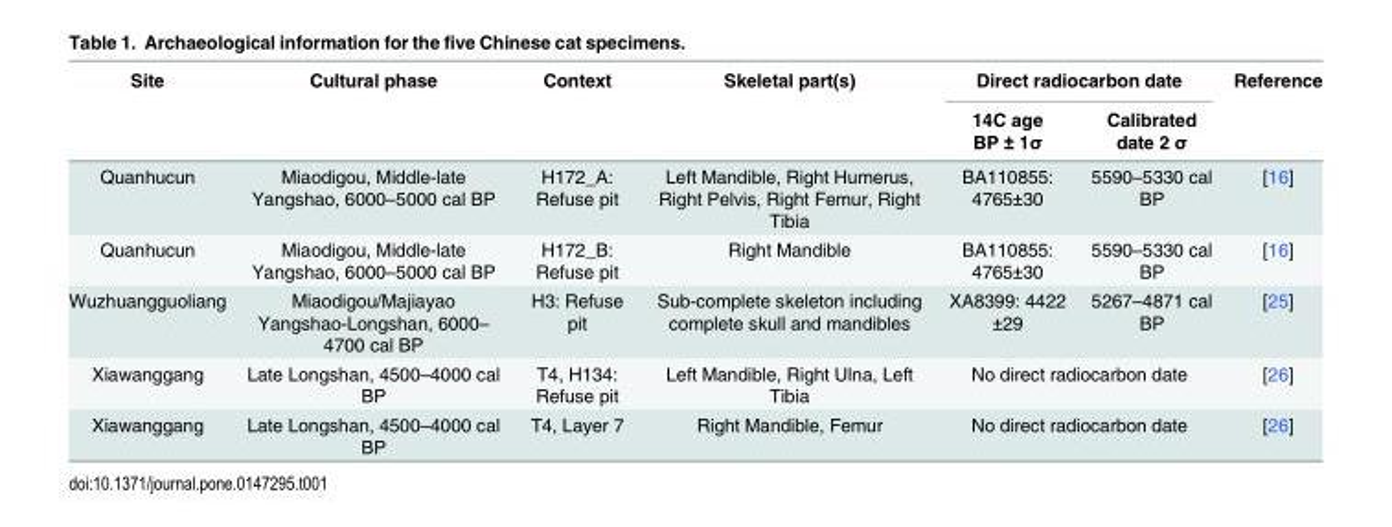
<table><thead><tr><td rowspan="2">Site</td><td rowspan="2">Cultural phase</td><td rowspan="2">Context</td><td rowspan="2">Skeletal part(s)</td><td colspan="2">Direct radiocarbon date</td><td rowspan="2">Reference</td></tr><tr><td>14C age BP ± 1σ</td><td>Calibrated date 2 σ</td></tr></thead><tbody><tr><td>Quanhucun</td><td>Miaodigou, Middle-late Yangshao, 6000–5000 cal BP</td><td>H172_A: Refuse pit</td><td>Left Mandible, Right Humerus, Right Pelvis, Right Femur, Right Tibia</td><td>BA110855: 4765±30</td><td>5590–5330 cal BP</td><td>[16]</td></tr><tr><td>Quanhucun</td><td>Miaodigou, Middle-late Yangshao, 6000–5000 cal BP</td><td>H172_B: Refuse pit</td><td>Right Mandible</td><td>BA110855: 4765±30</td><td>5590–5330 cal BP</td><td>[16]</td></tr><tr><td>Wuzhuangguoliang</td><td>Miaodigou/Majiayao Yangshao-Longshan, 6000– 4700 cal BP</td><td>H3: Refuse pit</td><td>Sub-complete skeleton including complete skull and mandibles</td><td>XA8399: 4422 ±29</td><td>5267–4871 cal BP</td><td>[25]</td></tr><tr><td>Xiawanggang</td><td>Late Longshan, 4500–4000 cal BP</td><td>T4, H134: Refuse pit</td><td>Left Mandible, Right Ulna, Left Tibia</td><td colspan="2">No direct radiocarbon date</td><td>[26]</td></tr><tr><td>Xiawanggang</td><td>Late Longshan, 4500–4000 cal BP</td><td>T4, Layer 7</td><td>Right Mandible, Femur</td><td colspan="2">No direct radiocarbon date</td><td>[26]</td></tr></tbody></table>